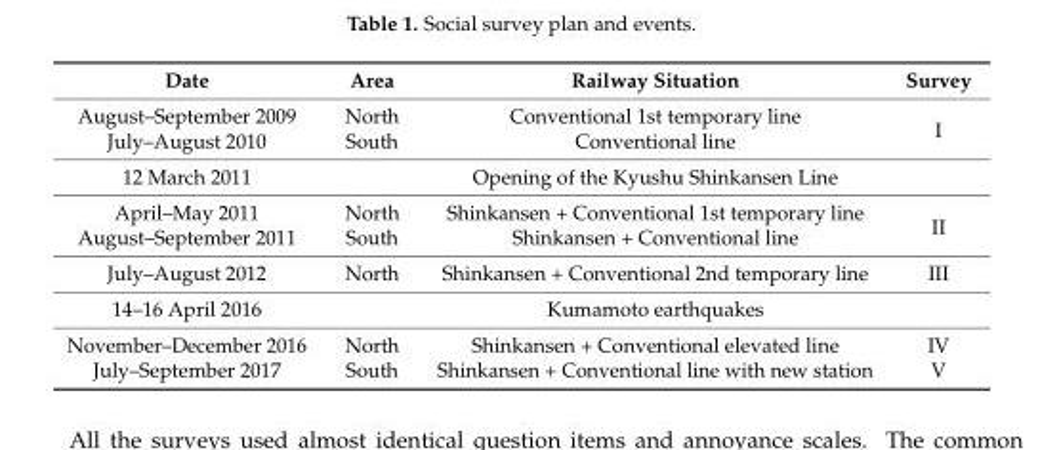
<table><thead><tr><td>Date</td><td>Area</td><td>Railway Situation</td><td>Survey</td></tr></thead><tbody><tr><td>August–September 2009</td><td>North</td><td>Conventional 1st temporary line</td><td rowspan="2">I</td></tr><tr><td>July–August 2010</td><td>South</td><td>Conventional line</td></tr><tr><td>12 March 2011</td><td></td><td>Opening of the Kyushu Shinkansen Line</td><td></td></tr><tr><td>April–May 2011</td><td>North</td><td>Shinkansen + Conventional 1st temporary line</td><td rowspan="2">II</td></tr><tr><td>August–September 2011</td><td>South</td><td>Shinkansen + Conventional line</td></tr><tr><td>July–August 2012</td><td>North</td><td>Shinkansen + Conventional 2nd temporary line</td><td>III</td></tr><tr><td>14–16 April 2016</td><td></td><td>Kumamoto earthquakes</td><td></td></tr><tr><td>November–December 2016</td><td>North</td><td>Shinkansen + Conventional elevated line</td><td>IV</td></tr><tr><td>July–September 2017</td><td>South</td><td>Shinkansen + Conventional line with new station</td><td>V</td></tr></tbody></table>